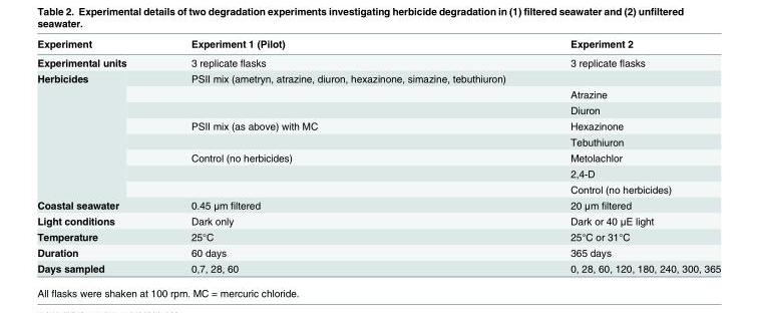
<table><thead><tr><td>Experiment</td><td>Experiment 1 (Pilot)</td><td>Experiment 2</td></tr></thead><tbody><tr><td>Experimental units</td><td>3 replicate flasks</td><td>3 replicate flasks</td></tr><tr><td rowspan="8">Herbicides</td><td>PSII mix (ametryn, atrazine, diuron, hexazinone, simazine, tebuthiuron)</td><td></td></tr><tr><td></td><td>Atrazine</td></tr><tr><td></td><td>Diuron</td></tr><tr><td>PSII mix (as above) with MC</td><td>Hexazinone</td></tr><tr><td></td><td>Tebuthiuron</td></tr><tr><td>Control (no herbicides)</td><td>Metolachlor</td></tr><tr><td></td><td>2,4-D</td></tr><tr><td></td><td>Control (no herbicides)</td></tr><tr><td>Coastal seawater</td><td>0.45 μm filtered</td><td>20 μm filtered</td></tr><tr><td>Light conditions</td><td>Dark only</td><td>Dark or 40 μE light</td></tr><tr><td>Temperature</td><td>25°C</td><td>25°C or 31°C</td></tr><tr><td>Duration</td><td>60 days</td><td>365 days</td></tr><tr><td>Days sampled</td><td>0,7, 28, 60</td><td>0, 28, 60, 120, 180, 240, 300, 365</td></tr></tbody></table>